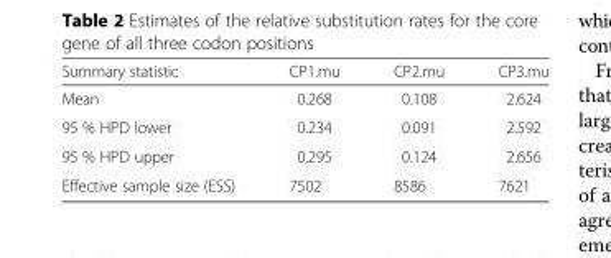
<table><thead><tr><td>Summary statistic</td><td>CP1.mu</td><td>CP2.mu</td><td>CP3.mu</td></tr></thead><tbody><tr><td>Mean</td><td>0.268</td><td>0.108</td><td>2.624</td></tr><tr><td>95 % HPD lower</td><td>0.234</td><td>0.091</td><td>2.592</td></tr><tr><td>95 % HPD upper</td><td>0.295</td><td>0.124</td><td>2.656</td></tr><tr><td>Effective sample size (ESS)</td><td>7502</td><td>8586</td><td>7621</td></tr></tbody></table>